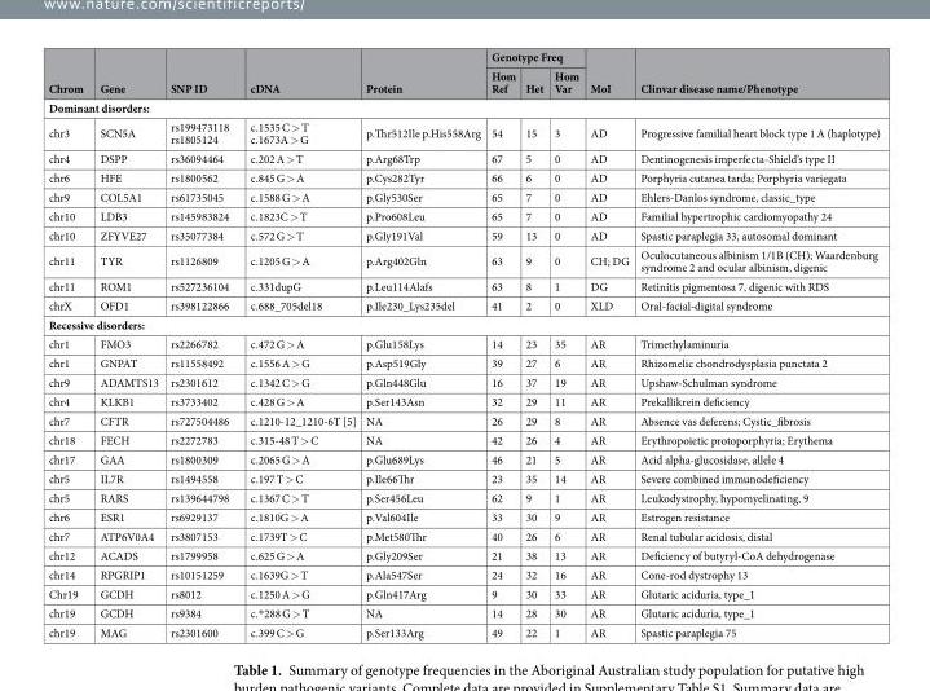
<table><thead><tr><td rowspan="2">Chrom</td><td rowspan="2">Gene</td><td rowspan="2">SNP ID</td><td rowspan="2">cDNA</td><td rowspan="2">Protein</td><td colspan="3">Genotype Freq</td><td rowspan="2">MoI</td><td rowspan="2">Clinvar disease name/Phenotype</td></tr><tr><td>Hom Ref</td><td>Het</td><td>Hom Var</td></tr></thead><tbody><tr><td colspan="10">Dominant disorders:</td></tr><tr><td>chr3</td><td>SCN5A</td><td>rs199473118 rs1805124</td><td>c.1535 C &gt; T c.1673A &gt; G</td><td>p.Thr512Ile p.His558Arg</td><td>54</td><td>15</td><td>3</td><td>AD</td><td>Progressive familial heart block type 1 A (haplotype)</td></tr><tr><td>chr4</td><td>DSPP</td><td>rs36094464</td><td>c.202 A &gt; T</td><td>p.Arg68Trp</td><td>67</td><td>5</td><td>0</td><td>AD</td><td>Dentinogenesis imperfecta-Shield’s type II</td></tr><tr><td>chr6</td><td>HFE</td><td>rs1800562</td><td>c.845 G &gt; A</td><td>p.Cys282Tyr</td><td>66</td><td>6</td><td>0</td><td>AD</td><td>Porphyria cutanea tarda; Porphyria variegata</td></tr><tr><td>chr9</td><td>COL5A1</td><td>rs61735045</td><td>c.1588 G &gt; A</td><td>p.Gly530Ser</td><td>65</td><td>7</td><td>0</td><td>AD</td><td>Ehlers-Danlos syndrome, classic_type</td></tr><tr><td>chr10</td><td>LDB3</td><td>rs145983824</td><td>c.1823C &gt; T</td><td>p.Pro608Leu</td><td>65</td><td>7</td><td>0</td><td>AD</td><td>Familial hypertrophic cardiomyopathy 24</td></tr><tr><td>chr10</td><td>ZFYVE27</td><td>rs35077384</td><td>c.572 G &gt; T</td><td>p.Gly191Val</td><td>59</td><td>13</td><td>0</td><td>AD</td><td>Spastic paraplegia 33, autosomal dominant</td></tr><tr><td>chr11</td><td>TYR</td><td>rs1126809</td><td>c.1205 G &gt; A</td><td>p.Arg402Gln</td><td>63</td><td>9</td><td>0</td><td>CH; DG</td><td>Oculocutaneous albinism 1/1B (CH); Waardenburg syndrome 2 and ocular albinism, digenic</td></tr><tr><td>chr11</td><td>ROM1</td><td>rs527236104</td><td>c.331dupG</td><td>p.Leu114Alafs</td><td>63</td><td>8</td><td>1</td><td>DG</td><td>Retinitis pigmentosa 7, digenic with RDS</td></tr><tr><td>chrX</td><td>OFD1</td><td>rs398122866</td><td>c.688_705del18</td><td>p.Ile230_Lys235del</td><td>41</td><td>2</td><td>0</td><td>XLD</td><td>Oral-facial-digital syndrome</td></tr><tr><td colspan="10">Recessive disorders:</td></tr><tr><td>chr1</td><td>FMO3</td><td>rs2266782</td><td>c.472 G &gt; A</td><td>p.Glu158Lys</td><td>14</td><td>23</td><td>35</td><td>AR</td><td>Trimethylaminuria</td></tr><tr><td>chr1</td><td>GNPAT</td><td>rs11558492</td><td>c.1556 A &gt; G</td><td>p.Asp519Gly</td><td>39</td><td>27</td><td>6</td><td>AR</td><td>Rhizomelic chondrodysplasia punctata 2</td></tr><tr><td>chr9</td><td>ADAMTS13</td><td>rs2301612</td><td>c.1342 C &gt; G</td><td>p.Gln448Glu</td><td>16</td><td>37</td><td>19</td><td>AR</td><td>Upshaw-Schulman syndrome</td></tr><tr><td>chr4</td><td>KLKB1</td><td>rs3733402</td><td>c.428 G &gt; A</td><td>p.Ser143Asn</td><td>32</td><td>29</td><td>11</td><td>AR</td><td>Prekallikrein deficiency</td></tr><tr><td>chr7</td><td>CFTR</td><td>rs727504486</td><td>c.1210-12_1210-6T [5]</td><td>NA</td><td>26</td><td>29</td><td>8</td><td>AR</td><td>Absence vas deferens; Cystic_fibrosis</td></tr><tr><td>chr18</td><td>FECH</td><td>rs2272783</td><td>c.315-48 T &gt; C</td><td>NA</td><td>42</td><td>26</td><td>4</td><td>AR</td><td>Erythropoietic protoporphyria; Erythema</td></tr><tr><td>chr17</td><td>GAA</td><td>rs1800309</td><td>c.2065 G &gt; A</td><td>p.Glu689Lys</td><td>46</td><td>21</td><td>5</td><td>AR</td><td>Acid alpha-glucosidase, allele 4</td></tr><tr><td>chr5</td><td>IL7R</td><td>rs1494558</td><td>c.197 T &gt; C</td><td>p.Ile66Thr</td><td>23</td><td>35</td><td>14</td><td>AR</td><td>Severe combined immunodeficiency</td></tr><tr><td>chr5</td><td>RARS</td><td>rs139644798</td><td>c.1367 C &gt; T</td><td>p.Ser456Leu</td><td>62</td><td>9</td><td>1</td><td>AR</td><td>Leukodystrophy, hypomyelinating, 9</td></tr><tr><td>chr6</td><td>ESR1</td><td>rs6929137</td><td>c.1810G &gt; A</td><td>p.Val604Ile</td><td>33</td><td>30</td><td>9</td><td>AR</td><td>Estrogen resistance</td></tr><tr><td>chr7</td><td>ATP6V0A4</td><td>rs3807153</td><td>c.1739T &gt; C</td><td>p.Met580Thr</td><td>40</td><td>26</td><td>6</td><td>AR</td><td>Renal tubular acidosis, distal</td></tr><tr><td>chr12</td><td>ACADS</td><td>rs1799958</td><td>c.625 G &gt; A</td><td>p.Gly209Ser</td><td>21</td><td>38</td><td>13</td><td>AR</td><td>Deficiency of butyryl-CoA dehydrogenase</td></tr><tr><td>chr14</td><td>RPGRIP1</td><td>rs10151259</td><td>c.1639G &gt; T</td><td>p.Ala547Ser</td><td>24</td><td>32</td><td>16</td><td>AR</td><td>Cone-rod dystrophy 13</td></tr><tr><td>Chr19</td><td>GCDH</td><td>rs8012</td><td>c.1250 A &gt; G</td><td>p.Gln417Arg</td><td>9</td><td>30</td><td>33</td><td>AR</td><td>Glutaric aciduria, type_1</td></tr><tr><td>chr19</td><td>GCDH</td><td>rs9384</td><td>c.*288 G &gt; T</td><td>NA</td><td>14</td><td>28</td><td>30</td><td>AR</td><td>Glutaric aciduria, type_1</td></tr><tr><td>chr19</td><td>MAG</td><td>rs2301600</td><td>c.399 C &gt; G</td><td>p.Ser133Arg</td><td>49</td><td>22</td><td>1</td><td>AR</td><td>Spastic paraplegia 75</td></tr></tbody></table>